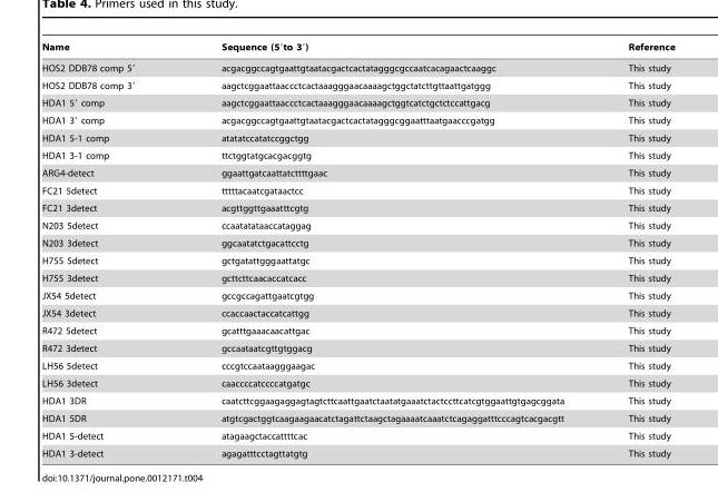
<table><thead><tr><td>Name</td><td>Sequence (5′to 3′)</td><td>Reference</td></tr></thead><tbody><tr><td>HOS2 DDB78 comp 5′</td><td>acgacggccagtgaattgtaatacgactcactatagggcgccaatcacagaactcaaggc</td><td>This study</td></tr><tr><td>HOS2 DDB78 comp 3′</td><td>aagctcggaattaaccctcactaaagggaacaaaagctggctatcttgttaattgatggg</td><td>This study</td></tr><tr><td>HDA1 5′ comp</td><td>aagctcggaattaaccctcactaaagggaacaaaagctggtcatctgctctccattgacg</td><td>This study</td></tr><tr><td>HDA1 3′ comp</td><td>acgacggccagtgaattgtaatacgactcactatagggcggaatttaatgaacccgatgg</td><td>This study</td></tr><tr><td>HDA1 5-1 comp</td><td>atatatccatatccggctgg</td><td>This study</td></tr><tr><td>HDA1 3-1 comp</td><td>ttctggtatgcacgacggtg</td><td>This study</td></tr><tr><td>ARG4-detect</td><td>ggaattgatcaattatcttttgaac</td><td>This study</td></tr><tr><td>FC21 5detect</td><td>tttttacaatcgataactcc</td><td>This study</td></tr><tr><td>FC21 3detect</td><td>acgttggttgaaatttcgtg</td><td>This study</td></tr><tr><td>N203 5detect</td><td>ccaatatataaccataggag</td><td>This study</td></tr><tr><td>N203 3detect</td><td>ggcaatatctgacattcctg</td><td>This study</td></tr><tr><td>H755 5detect</td><td>gctgatattgggaattatgc</td><td>This study</td></tr><tr><td>H755 3detect</td><td>gcttcttcaacaccatcacc</td><td>This study</td></tr><tr><td>JX54 5detect</td><td>gccgccagattgaatcgtgg</td><td>This study</td></tr><tr><td>JX54 3detect</td><td>ccaccaactaccatcattgg</td><td>This study</td></tr><tr><td>R472 5detect</td><td>gcatttgaaacaacattgac</td><td>This study</td></tr><tr><td>R472 3detect</td><td>gccaataatcgttgtggacg</td><td>This study</td></tr><tr><td>LH56 5detect</td><td>cccgtccaataagggaagac</td><td>This study</td></tr><tr><td>LH56 3detect</td><td>caaccccatccccatgatgc</td><td>This study</td></tr><tr><td>HDA1 3DR</td><td>caatcttcggaagaggagtagtcttcaattgaatctaatatgaaatctactccttcatcgtggaattgtgagcggata</td><td>This study</td></tr><tr><td>HDA1 5DR</td><td>atgtcgactggtcaagaagaacatctagattctaagctagaaaatcaaatctcagaggatttcccagtcacgacgtt</td><td>This study</td></tr><tr><td>HDA1 5-detect</td><td>atagaagctaccattttcac</td><td>This study</td></tr><tr><td>HDA1 3-detect</td><td>agagatttcctagttatgtg</td><td>This study</td></tr></tbody></table>